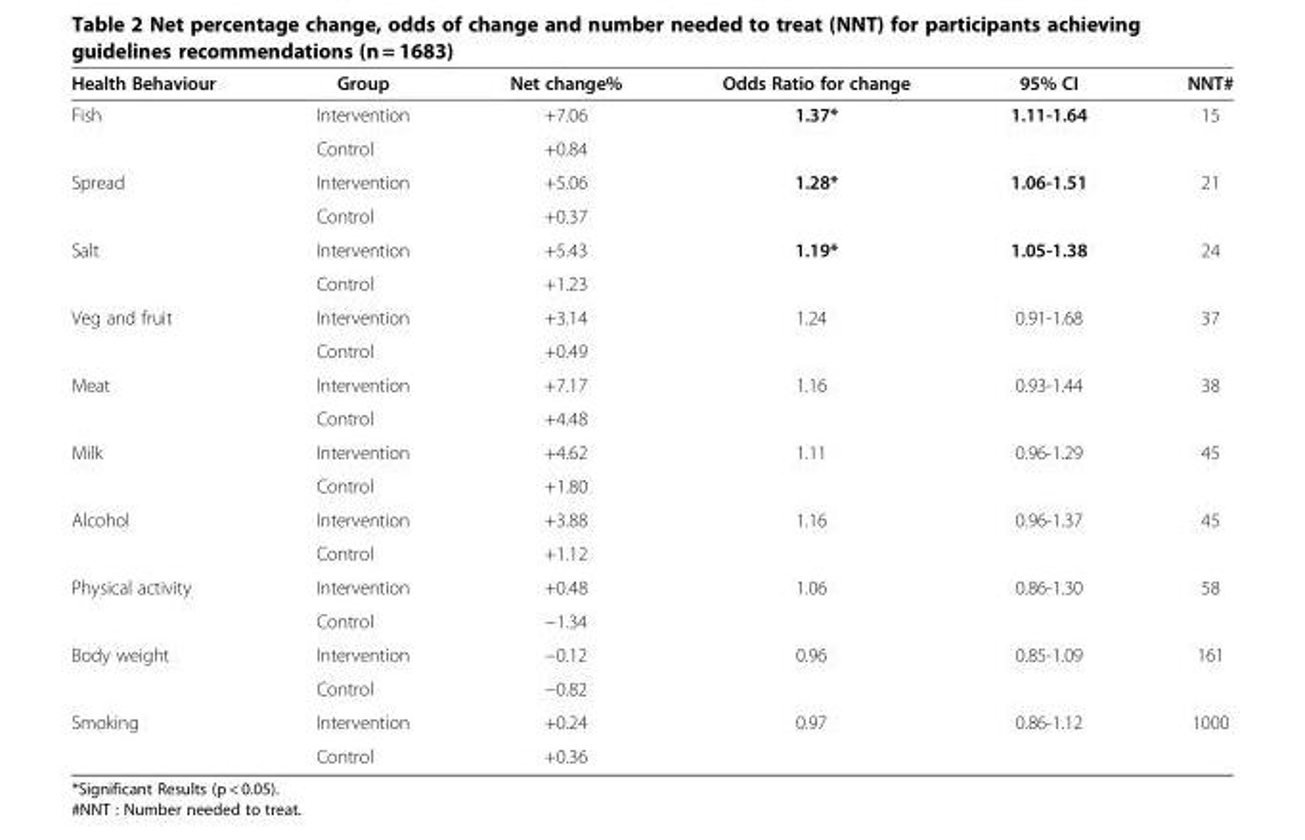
<table><thead><tr><td>Health Behaviour</td><td>Group</td><td>Net change%</td><td>Odds Ratio for change</td><td>95% CI</td><td>NNT#</td></tr></thead><tbody><tr><td rowspan="2">Fish</td><td>Intervention</td><td>+7.06</td><td>1.37*</td><td>1.11-1.64</td><td>15</td></tr><tr><td>Control</td><td>+0.84</td><td></td><td></td><td></td></tr><tr><td rowspan="2">Spread</td><td>Intervention</td><td>+5.06</td><td>1.28*</td><td>1.06-1.51</td><td>21</td></tr><tr><td>Control</td><td>+0.37</td><td></td><td></td><td></td></tr><tr><td rowspan="2">Salt</td><td>Intervention</td><td>+5.43</td><td>1.19*</td><td>1.05-1.38</td><td>24</td></tr><tr><td>Control</td><td>+1.23</td><td></td><td></td><td></td></tr><tr><td rowspan="2">Veg and fruit</td><td>Intervention</td><td>+3.14</td><td>1.24</td><td>0.91-1.68</td><td>37</td></tr><tr><td>Control</td><td>+0.49</td><td></td><td></td><td></td></tr><tr><td rowspan="2">Meat</td><td>Intervention</td><td>+7.17</td><td>1.16</td><td>0.93-1.44</td><td>38</td></tr><tr><td>Control</td><td>+4.48</td><td></td><td></td><td></td></tr><tr><td rowspan="2">Milk</td><td>Intervention</td><td>+4.62</td><td>1.11</td><td>0.96-1.29</td><td>45</td></tr><tr><td>Control</td><td>+1.80</td><td></td><td></td><td></td></tr><tr><td rowspan="2">Alcohol</td><td>Intervention</td><td>+3.88</td><td>1.16</td><td>0.96-1.37</td><td>45</td></tr><tr><td>Control</td><td>+1.12</td><td></td><td></td><td></td></tr><tr><td rowspan="2">Physical activity</td><td>Intervention</td><td>+0.48</td><td>1.06</td><td>0.86-1.30</td><td>58</td></tr><tr><td>Control</td><td>−1.34</td><td></td><td></td><td></td></tr><tr><td rowspan="2">Body weight</td><td>Intervention</td><td>−0.12</td><td>0.96</td><td>0.85-1.09</td><td>161</td></tr><tr><td>Control</td><td>−0.82</td><td></td><td></td><td></td></tr><tr><td rowspan="2">Smoking</td><td>Intervention</td><td>+0.24</td><td>0.97</td><td>0.86-1.12</td><td>1000</td></tr><tr><td>Control</td><td>+0.36</td><td></td><td></td><td></td></tr></tbody></table>